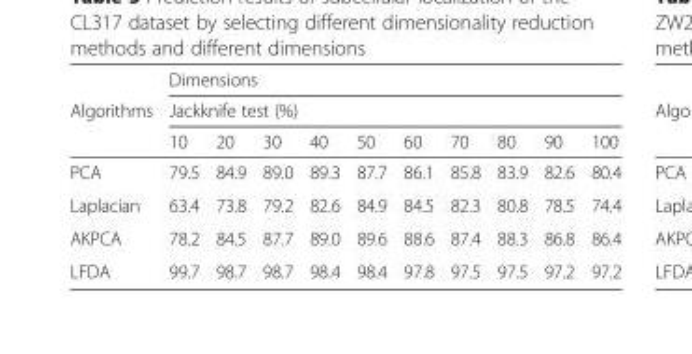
<table><thead><tr><td rowspan="3">Algorithms</td><td rowspan="2" colspan="10">Dimensions Jackknife test (%)</td></tr><tr></tr><tr><td>10</td><td>20</td><td>30</td><td>40</td><td>50</td><td>60</td><td>70</td><td>80</td><td>90</td><td>100</td></tr></thead><tbody><tr><td>PCA</td><td>79.5</td><td>84.9</td><td>89.0</td><td>89.3</td><td>87.7</td><td>86.1</td><td>85.8</td><td>83.9</td><td>82.6</td><td>80.4</td></tr><tr><td>Laplacian</td><td>63.4</td><td>73.8</td><td>79.2</td><td>82.6</td><td>84.9</td><td>84.5</td><td>82.3</td><td>80.8</td><td>78.5</td><td>74.4</td></tr><tr><td>AKPCA</td><td>78.2</td><td>84.5</td><td>87.7</td><td>89.0</td><td>89.6</td><td>88.6</td><td>87.4</td><td>88.3</td><td>86.8</td><td>86.4</td></tr><tr><td>LFDA</td><td>99.7</td><td>98.7</td><td>98.7</td><td>98.4</td><td>98.4</td><td>97.8</td><td>97.5</td><td>97.5</td><td>97.2</td><td>97.2</td></tr></tbody></table>